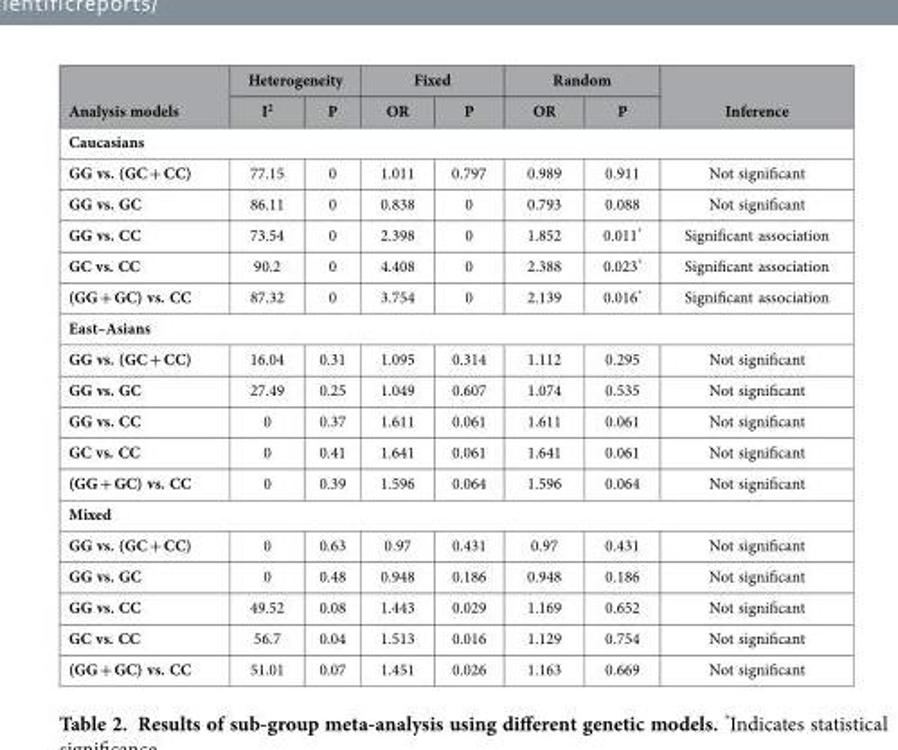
<table><thead><tr><td rowspan="2">Analysis models</td><td colspan="2">Heterogeneity</td><td colspan="2">Fixed</td><td colspan="2">Random</td><td rowspan="2">Inference</td></tr><tr><td>I<sup>2</sup></td><td>P</td><td>OR</td><td>P</td><td>OR</td><td>P</td></tr></thead><tbody><tr><td colspan="8">Caucasians</td></tr><tr><td>GG vs. (GC + CC)</td><td>77.15</td><td>0</td><td>1.011</td><td>0.797</td><td>0.989</td><td>0.911</td><td>Not significant</td></tr><tr><td>GG vs. GC</td><td>86.11</td><td>0</td><td>0.838</td><td>0</td><td>0.793</td><td>0.088</td><td>Not significant</td></tr><tr><td>GG vs. CC</td><td>73.54</td><td>0</td><td>2.398</td><td>0</td><td>1.852</td><td>0.011*</td><td>Significant association</td></tr><tr><td>GC vs. CC</td><td>90.2</td><td>0</td><td>4.408</td><td>0</td><td>2.388</td><td>0.023*</td><td>Significant association</td></tr><tr><td>(GG + GC) vs. CC</td><td>87.32</td><td>0</td><td>3.754</td><td>0</td><td>2.139</td><td>0.016*</td><td>Significant association</td></tr><tr><td colspan="8">East–Asians</td></tr><tr><td>GG vs. (GC + CC)</td><td>16.04</td><td>0.31</td><td>1.095</td><td>0.314</td><td>1.112</td><td>0.295</td><td>Not significant</td></tr><tr><td>GG vs. GC</td><td>27.49</td><td>0.25</td><td>1.049</td><td>0.607</td><td>1.074</td><td>0.535</td><td>Not significant</td></tr><tr><td>GG vs. CC</td><td>0</td><td>0.37</td><td>1.611</td><td>0.061</td><td>1.611</td><td>0.061</td><td>Not significant</td></tr><tr><td>GC vs. CC</td><td>0</td><td>0.41</td><td>1.641</td><td>0.061</td><td>1.641</td><td>0.061</td><td>Not significant</td></tr><tr><td>(GG + GC) vs. CC</td><td>0</td><td>0.39</td><td>1.596</td><td>0.064</td><td>1.596</td><td>0.064</td><td>Not significant</td></tr><tr><td colspan="8">Mixed</td></tr><tr><td>GG vs. (GC + CC)</td><td>0</td><td>0.63</td><td>0.97</td><td>0.431</td><td>0.97</td><td>0.431</td><td>Not significant</td></tr><tr><td>GG vs. GC</td><td>0</td><td>0.48</td><td>0.948</td><td>0.186</td><td>0.948</td><td>0.186</td><td>Not significant</td></tr><tr><td>GG vs. CC</td><td>49.52</td><td>0.08</td><td>1.443</td><td>0.029</td><td>1.169</td><td>0.652</td><td>Not significant</td></tr><tr><td>GC vs. CC</td><td>56.7</td><td>0.04</td><td>1.513</td><td>0.016</td><td>1.129</td><td>0.754</td><td>Not significant</td></tr><tr><td>(GG + GC) vs. CC</td><td>51.01</td><td>0.07</td><td>1.451</td><td>0.026</td><td>1.163</td><td>0.669</td><td>Not significant</td></tr></tbody></table>